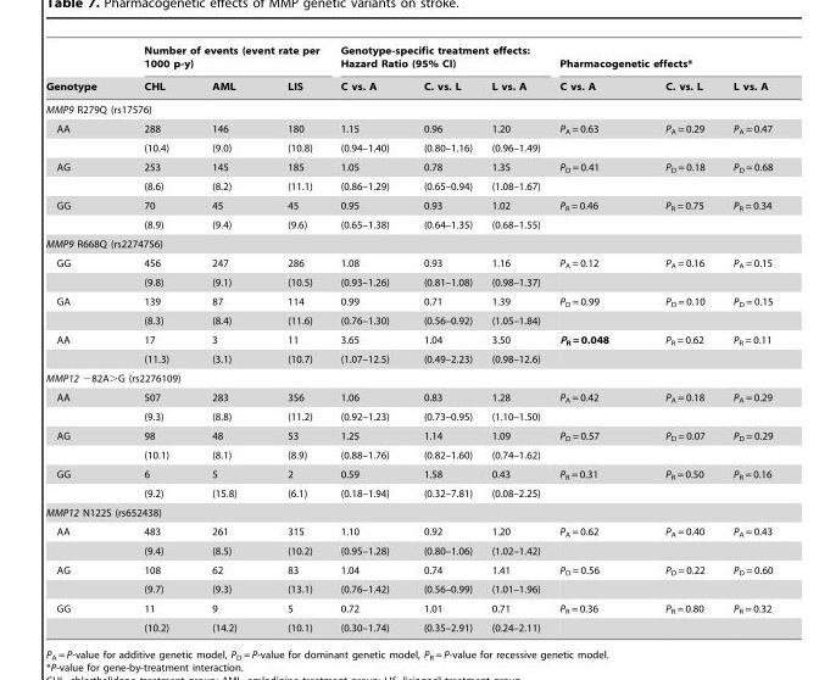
<table><thead><tr><td rowspan="2">Genotype</td><td colspan="3">Number of events (event rate per 1000 p-y)</td><td colspan="3">Genotype-specific treatment effects: Hazard Ratio (95% CI)</td><td colspan="3">Pharmacogenetic effects*</td></tr><tr><td>CHL</td><td>AML</td><td>LIS</td><td>C vs. A</td><td>C. vs. L</td><td>L vs. A</td><td>C vs. A</td><td>C. vs. L</td><td>L vs. A</td></tr></thead><tbody><tr><td colspan="10">MMP9 R279Q (rs17576)</td></tr><tr><td rowspan="2">AA</td><td>288</td><td>146</td><td>180</td><td>1.15</td><td>0.96</td><td>1.20</td><td>P<sub>A</sub> = 0.63</td><td>P<sub>A</sub> = 0.29</td><td>P<sub>A</sub> = 0.47</td></tr><tr><td>(10.4)</td><td>(9.0)</td><td>(10.8)</td><td>(0.94–1.40)</td><td>(0.80–1.16)</td><td>(0.96–1.49)</td><td></td><td></td><td></td></tr><tr><td rowspan="2">AG</td><td>253</td><td>145</td><td>185</td><td>1.05</td><td>0.78</td><td>1.35</td><td>P<sub>D</sub> = 0.41</td><td>P<sub>D</sub> = 0.18</td><td>P<sub>D</sub> = 0.68</td></tr><tr><td>(8.6)</td><td>(8.2)</td><td>(11.1)</td><td>(0.86–1.29)</td><td>(0.65–0.94)</td><td>(1.08–1.67)</td><td></td><td></td><td></td></tr><tr><td rowspan="2">GG</td><td>70</td><td>45</td><td>45</td><td>0.95</td><td>0.93</td><td>1.02</td><td>P<sub>R</sub> = 0.46</td><td>P<sub>R</sub> = 0.75</td><td>P<sub>R</sub> = 0.34</td></tr><tr><td>(8.9)</td><td>(9.4)</td><td>(9.6)</td><td>(0.65–1.38)</td><td>(0.64–1.35)</td><td>(0.68–1.55)</td><td></td><td></td><td></td></tr><tr><td colspan="10">MMP9 R668Q (rs2274756)</td></tr><tr><td rowspan="2">GG</td><td>456</td><td>247</td><td>286</td><td>1.08</td><td>0.93</td><td>1.16</td><td>P<sub>A</sub> = 0.12</td><td>P<sub>A</sub> = 0.16</td><td>P<sub>A</sub> = 0.15</td></tr><tr><td>(9.8)</td><td>(9.1)</td><td>(10.5)</td><td>(0.93–1.26)</td><td>(0.81–1.08)</td><td>(0.98–1.37)</td><td></td><td></td><td></td></tr><tr><td rowspan="2">GA</td><td>139</td><td>87</td><td>114</td><td>0.99</td><td>0.71</td><td>1.39</td><td>P<sub>D</sub> = 0.99</td><td>P<sub>D</sub> = 0.10</td><td>P<sub>D</sub> = 0.15</td></tr><tr><td>(8.3)</td><td>(8.4)</td><td>(11.6)</td><td>(0.76–1.30)</td><td>(0.56–0.92)</td><td>(1.05–1.84)</td><td></td><td></td><td></td></tr><tr><td rowspan="2">AA</td><td>17</td><td>3</td><td>11</td><td>3.65</td><td>1.04</td><td>3.50</td><td>P<sub>R</sub> = 0.048</td><td>P<sub>R</sub> = 0.62</td><td>P<sub>R</sub> = 0.11</td></tr><tr><td>(11.3)</td><td>(3.1)</td><td>(10.7)</td><td>(1.07–12.5)</td><td>(0.49–2.23)</td><td>(0.98–12.6)</td><td></td><td></td><td></td></tr><tr><td colspan="10">MMP12 −82A&gt;G (rs2276109)</td></tr><tr><td rowspan="2">AA</td><td>507</td><td>283</td><td>356</td><td>1.06</td><td>0.83</td><td>1.28</td><td>P<sub>A</sub> = 0.42</td><td>P<sub>A</sub> = 0.18</td><td>P<sub>A</sub> = 0.29</td></tr><tr><td>(9.3)</td><td>(8.8)</td><td>(11.2)</td><td>(0.92–1.23)</td><td>(0.73–0.95)</td><td>(1.10–1.50)</td><td></td><td></td><td></td></tr><tr><td rowspan="2">AG</td><td>98</td><td>48</td><td>53</td><td>1.25</td><td>1.14</td><td>1.09</td><td>P<sub>D</sub> = 0.57</td><td>P<sub>D</sub> = 0.07</td><td>P<sub>D</sub> = 0.29</td></tr><tr><td>(10.1)</td><td>(8.1)</td><td>(8.9)</td><td>(0.88–1.76)</td><td>(0.82–1.60)</td><td>(0.74–1.62)</td><td></td><td></td><td></td></tr><tr><td rowspan="2">GG</td><td>6</td><td>5</td><td>2</td><td>0.59</td><td>1.58</td><td>0.43</td><td>P<sub>R</sub> = 0.31</td><td>P<sub>R</sub> = 0.50</td><td>P<sub>R</sub> = 0.16</td></tr><tr><td>(9.2)</td><td>(15.8)</td><td>(6.1)</td><td>(0.18–1.94)</td><td>(0.32–7.81)</td><td>(0.08–2.25)</td><td></td><td></td><td></td></tr><tr><td colspan="10">MMP12 N122S (rs652438)</td></tr><tr><td rowspan="2">AA</td><td>483</td><td>261</td><td>315</td><td>1.10</td><td>0.92</td><td>1.20</td><td>P<sub>A</sub> = 0.62</td><td>P<sub>A</sub> = 0.40</td><td>P<sub>A</sub> = 0.43</td></tr><tr><td>(9.4)</td><td>(8.5)</td><td>(10.2)</td><td>(0.95–1.28)</td><td>(0.80–1.06)</td><td>(1.02–1.42)</td><td></td><td></td><td></td></tr><tr><td rowspan="2">AG</td><td>108</td><td>62</td><td>83</td><td>1.04</td><td>0.74</td><td>1.41</td><td>P<sub>D</sub> = 0.56</td><td>P<sub>D</sub> = 0.22</td><td>P<sub>D</sub> = 0.60</td></tr><tr><td>(9.7)</td><td>(9.3)</td><td>(13.1)</td><td>(0.76–1.42)</td><td>(0.56–0.99)</td><td>(1.01–1.96)</td><td></td><td></td><td></td></tr><tr><td rowspan="2">GG</td><td>11</td><td>9</td><td>5</td><td>0.72</td><td>1.01</td><td>0.71</td><td>P<sub>R</sub> = 0.36</td><td>P<sub>R</sub> = 0.80</td><td>P<sub>R</sub> = 0.32</td></tr><tr><td>(10.2)</td><td>(14.2)</td><td>(10.1)</td><td>(0.30–1.74)</td><td>(0.35–2.91)</td><td>(0.24–2.11)</td><td></td><td></td><td></td></tr></tbody></table>